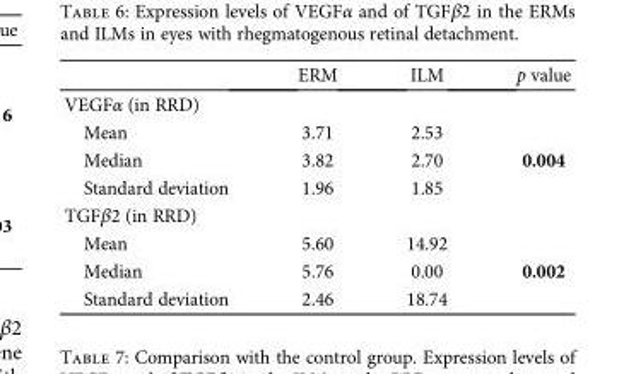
<table><thead><tr><td></td><td>ERM</td><td>ILM</td><td>p value</td></tr></thead><tbody><tr><td colspan="4">VEGFα (in RRD)</td></tr><tr><td>Mean</td><td>3.71</td><td>2.53</td><td rowspan="3">0.004</td></tr><tr><td>Median</td><td>3.82</td><td>2.70</td></tr><tr><td>Standard deviation</td><td>1.96</td><td>1.85</td></tr><tr><td colspan="4">TGFβ2 (in RRD)</td></tr><tr><td>Mean</td><td>5.60</td><td>14.92</td><td rowspan="3">0.002</td></tr><tr><td>Median</td><td>5.76</td><td>0.00</td></tr><tr><td>Standard deviation</td><td>2.46</td><td>18.74</td></tr></tbody></table>